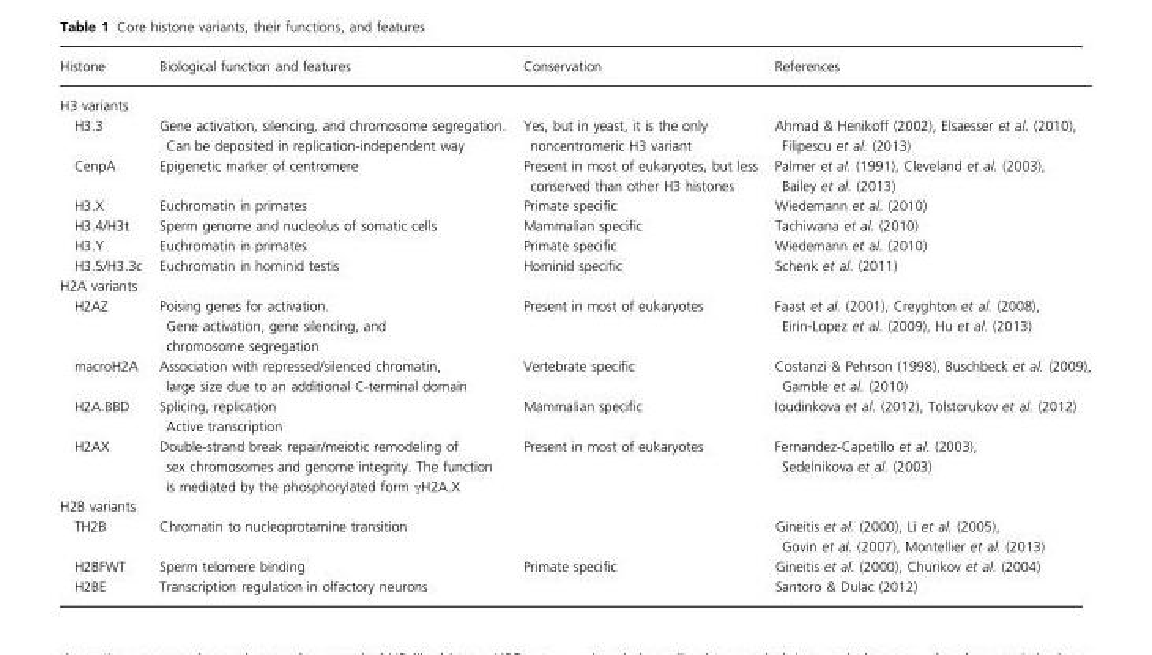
<table><thead><tr><td>Histone</td><td>Biological function and features</td><td>Conservation</td><td>References</td></tr></thead><tbody><tr><td colspan="4">H3 variants</td></tr><tr><td>H3.3</td><td>Gene activation, silencing, and chromosome segregation. Can be deposited in replication-independent way</td><td>Yes, but in yeast, it is the only noncentromeric H3 variant</td><td>Ahmad &amp; Henikoff (2002), Elsaesser et al. (2010), Filipescu et al. (2013)</td></tr><tr><td>CenpA</td><td>Epigenetic marker of centromere</td><td>Present in most of eukaryotes, but less conserved than other H3 histones</td><td>Palmer et al. (1991), Cleveland et al. (2003), Bailey et al. (2013)</td></tr><tr><td>H3.X</td><td>Euchromatin in primates</td><td>Primate specific</td><td>Wiedemann et al. (2010)</td></tr><tr><td>H3.4/H3t</td><td>Sperm genome and nucleolus of somatic cells</td><td>Mammalian specific</td><td>Tachiwana et al. (2010)</td></tr><tr><td>H3.Y</td><td>Euchromatin in primates</td><td>Primate specific</td><td>Wiedemann et al. (2010)</td></tr><tr><td>H3.5/H3.3c</td><td>Euchromatin in hominid testis</td><td>Hominid specific</td><td>Schenk et al. (2011)</td></tr><tr><td colspan="4">H2A variants</td></tr><tr><td>H2AZ</td><td>Poising genes for activation. Gene activation, gene silencing, and chromosome segregation</td><td>Present in most of eukaryotes</td><td>Faast et al. (2001), Creyghton et al. (2008), Eirin-Lopez et al. (2009), Hu et al. (2013)</td></tr><tr><td>macroH2A</td><td>Association with repressed/silenced chromatin, large size due to an additional C-terminal domain</td><td>Vertebrate specific</td><td>Costanzi &amp; Pehrson (1998), Buschbeck et al. (2009), Gamble et al. (2010)</td></tr><tr><td>H2A.BBD</td><td>Splicing, replication Active transcription</td><td>Mammalian specific</td><td>Ioudinkova et al. (2012), Tolstorukov et al. (2012)</td></tr><tr><td>H2AX</td><td>Double-strand break repair/meiotic remodeling of sex chromosomes and genome integrity. The function is mediated by the phosphorylated form γH2A.X</td><td>Present in most of eukaryotes</td><td>Fernandez-Capetillo et al. (2003), Sedelnikova et al. (2003)</td></tr><tr><td colspan="4">H2B variants</td></tr><tr><td>TH2B</td><td>Chromatin to nucleoprotamine transition</td><td></td><td>Gineitis et al. (2000), Li et al. (2005), Govin et al. (2007), Montellier et al. (2013)</td></tr><tr><td>H2BFWT</td><td>Sperm telomere binding</td><td>Primate specific</td><td>Gineitis et al. (2000), Churikov et al. (2004)</td></tr><tr><td>H2BE</td><td>Transcription regulation in olfactory neurons</td><td></td><td>Santoro &amp; Dulac (2012)</td></tr></tbody></table>